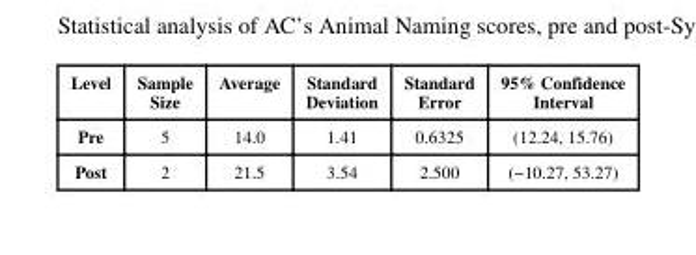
<table><thead><tr><td>Level</td><td>Sample Size</td><td>Average</td><td>Standard Deviation</td><td>Standard Error</td><td>95% Confidence Interval</td></tr></thead><tbody><tr><td>Pre</td><td>5</td><td>14.0</td><td>1.41</td><td>0.6325</td><td>(12.24, 15.76)</td></tr><tr><td>Post</td><td>2</td><td>21.5</td><td>3.54</td><td>2.500</td><td>(−10.27, 53.27)</td></tr></tbody></table>